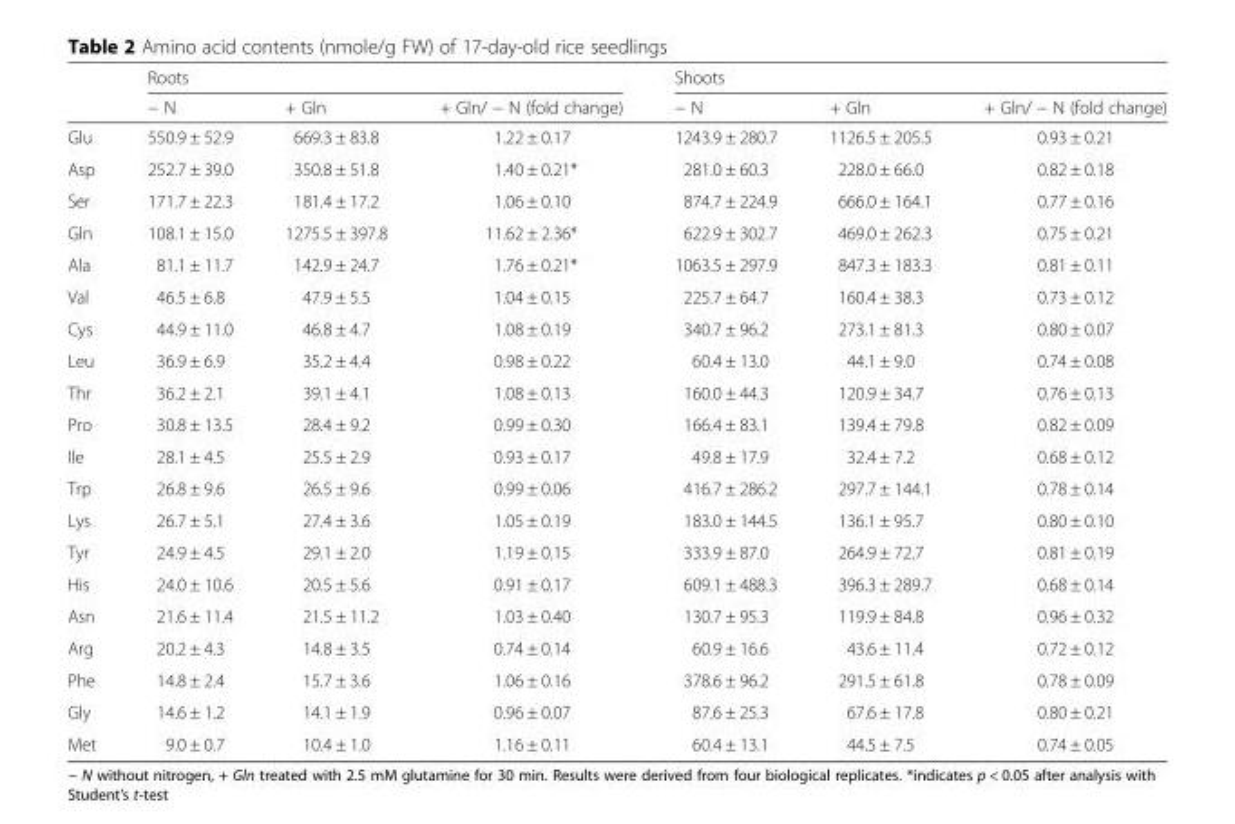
<table><thead><tr><td rowspan="2"></td><td colspan="3">Roots</td><td colspan="3">Shoots</td></tr><tr><td>− N</td><td>+ Gln</td><td>+ Gln/ − N (fold change)</td><td>− N</td><td>+ Gln</td><td>+ Gln/ − N (fold change)</td></tr></thead><tbody><tr><td>Glu</td><td>550.9 ± 52.9</td><td>669.3 ± 83.8</td><td>1.22 ± 0.17</td><td>1243.9 ± 280.7</td><td>1126.5 ± 205.5</td><td>0.93 ± 0.21</td></tr><tr><td>Asp</td><td>252.7 ± 39.0</td><td>350.8 ± 51.8</td><td>1.40 ± 0.21*</td><td>281.0 ± 60.3</td><td>228.0 ± 66.0</td><td>0.82 ± 0.18</td></tr><tr><td>Ser</td><td>171.7 ± 22.3</td><td>181.4 ± 17.2</td><td>1.06 ± 0.10</td><td>874.7 ± 224.9</td><td>666.0 ± 164.1</td><td>0.77 ± 0.16</td></tr><tr><td>Gln</td><td>108.1 ± 15.0</td><td>1275.5 ± 397.8</td><td>11.62 ± 2.36*</td><td>622.9 ± 302.7</td><td>469.0 ± 262.3</td><td>0.75 ± 0.21</td></tr><tr><td>Ala</td><td>81.1 ± 11.7</td><td>142.9 ± 24.7</td><td>1.76 ± 0.21*</td><td>1063.5 ± 297.9</td><td>847.3 ± 183.3</td><td>0.81 ± 0.11</td></tr><tr><td>Val</td><td>46.5 ± 6.8</td><td>47.9 ± 5.5</td><td>1.04 ± 0.15</td><td>225.7 ± 64.7</td><td>160.4 ± 38.3</td><td>0.73 ± 0.12</td></tr><tr><td>Cys</td><td>44.9 ± 11.0</td><td>46.8 ± 4.7</td><td>1.08 ± 0.19</td><td>340.7 ± 96.2</td><td>273.1 ± 81.3</td><td>0.80 ± 0.07</td></tr><tr><td>Leu</td><td>36.9 ± 6.9</td><td>35.2 ± 4.4</td><td>0.98 ± 0.22</td><td>60.4 ± 13.0</td><td>44.1 ± 9.0</td><td>0.74 ± 0.08</td></tr><tr><td>Thr</td><td>36.2 ± 2.1</td><td>39.1 ± 4.1</td><td>1.08 ± 0.13</td><td>160.0 ± 44.3</td><td>120.9 ± 34.7</td><td>0.76 ± 0.13</td></tr><tr><td>Pro</td><td>30.8 ± 13.5</td><td>28.4 ± 9.2</td><td>0.99 ± 0.30</td><td>166.4 ± 83.1</td><td>139.4 ± 79.8</td><td>0.82 ± 0.09</td></tr><tr><td>Ile</td><td>28.1 ± 4.5</td><td>25.5 ± 2.9</td><td>0.93 ± 0.17</td><td>49.8 ± 17.9</td><td>32.4 ± 7.2</td><td>0.68 ± 0.12</td></tr><tr><td>Trp</td><td>26.8 ± 9.6</td><td>26.5 ± 9.6</td><td>0.99 ± 0.06</td><td>416.7 ± 286.2</td><td>297.7 ± 144.1</td><td>0.78 ± 0.14</td></tr><tr><td>Lys</td><td>26.7 ± 5.1</td><td>27.4 ± 3.6</td><td>1.05 ± 0.19</td><td>183.0 ± 144.5</td><td>136.1 ± 95.7</td><td>0.80 ± 0.10</td></tr><tr><td>Tyr</td><td>24.9 ± 4.5</td><td>29.1 ± 2.0</td><td>1.19 ± 0.15</td><td>333.9 ± 87.0</td><td>264.9 ± 72.7</td><td>0.81 ± 0.19</td></tr><tr><td>His</td><td>24.0 ± 10.6</td><td>20.5 ± 5.6</td><td>0.91 ± 0.17</td><td>609.1 ± 488.3</td><td>396.3 ± 289.7</td><td>0.68 ± 0.14</td></tr><tr><td>Asn</td><td>21.6 ± 11.4</td><td>21.5 ± 11.2</td><td>1.03 ± 0.40</td><td>130.7 ± 95.3</td><td>119.9 ± 84.8</td><td>0.96 ± 0.32</td></tr><tr><td>Arg</td><td>20.2 ± 4.3</td><td>14.8 ± 3.5</td><td>0.74 ± 0.14</td><td>60.9 ± 16.6</td><td>43.6 ± 11.4</td><td>0.72 ± 0.12</td></tr><tr><td>Phe</td><td>14.8 ± 2.4</td><td>15.7 ± 3.6</td><td>1.06 ± 0.16</td><td>378.6 ± 96.2</td><td>291.5 ± 61.8</td><td>0.78 ± 0.09</td></tr><tr><td>Gly</td><td>14.6 ± 1.2</td><td>14.1 ± 1.9</td><td>0.96 ± 0.07</td><td>87.6 ± 25.3</td><td>67.6 ± 17.8</td><td>0.80 ± 0.21</td></tr><tr><td>Met</td><td>9.0 ± 0.7</td><td>10.4 ± 1.0</td><td>1.16 ± 0.11</td><td>60.4 ± 13.1</td><td>44.5 ± 7.5</td><td>0.74 ± 0.05</td></tr></tbody></table>